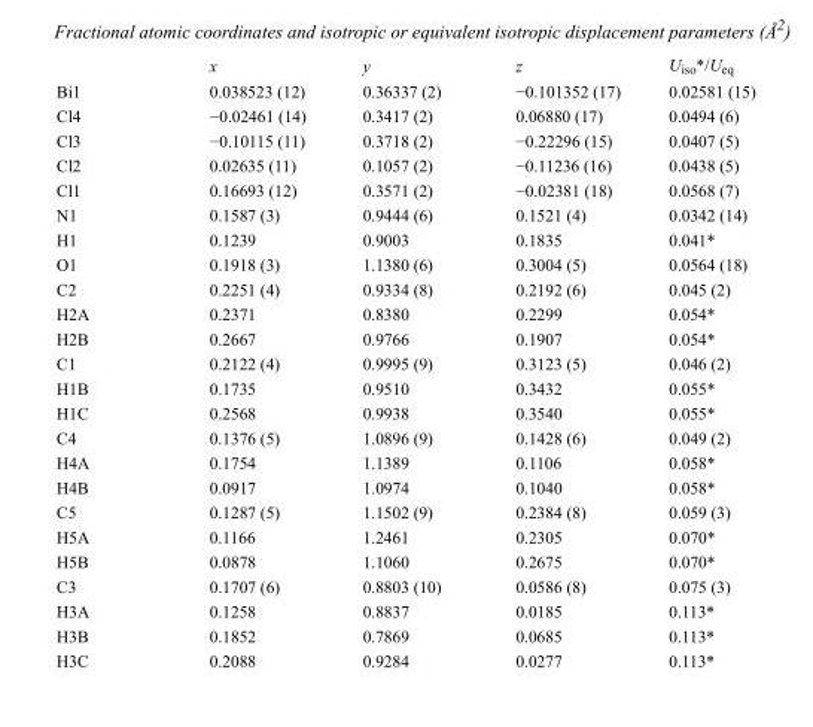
<table><thead><tr><td></td><td>x</td><td>y</td><td>z</td><td>U<sub>iso</sub>*/U<sub>eq</sub></td></tr></thead><tbody><tr><td>Bi1</td><td>0.038523 (12)</td><td>0.36337 (2)</td><td>−0.101352 (17)</td><td>0.02581 (15)</td></tr><tr><td>Cl4</td><td>−0.02461 (14)</td><td>0.3417 (2)</td><td>0.06880 (17)</td><td>0.0494 (6)</td></tr><tr><td>Cl3</td><td>−0.10115 (11)</td><td>0.3718 (2)</td><td>−0.22296 (15)</td><td>0.0407 (5)</td></tr><tr><td>Cl2</td><td>0.02635 (11)</td><td>0.1057 (2)</td><td>−0.11236 (16)</td><td>0.0438 (5)</td></tr><tr><td>Cl1</td><td>0.16693 (12)</td><td>0.3571 (2)</td><td>−0.02381 (18)</td><td>0.0568 (7)</td></tr><tr><td>N1</td><td>0.1587 (3)</td><td>0.9444 (6)</td><td>0.1521 (4)</td><td>0.0342 (14)</td></tr><tr><td>H1</td><td>0.1239</td><td>0.9003</td><td>0.1835</td><td>0.041*</td></tr><tr><td>O1</td><td>0.1918 (3)</td><td>1.1380 (6)</td><td>0.3004 (5)</td><td>0.0564 (18)</td></tr><tr><td>C2</td><td>0.2251 (4)</td><td>0.9334 (8)</td><td>0.2192 (6)</td><td>0.045 (2)</td></tr><tr><td>H2A</td><td>0.2371</td><td>0.8380</td><td>0.2299</td><td>0.054*</td></tr><tr><td>H2B</td><td>0.2667</td><td>0.9766</td><td>0.1907</td><td>0.054*</td></tr><tr><td>C1</td><td>0.2122 (4)</td><td>0.9995 (9)</td><td>0.3123 (5)</td><td>0.046 (2)</td></tr><tr><td>H1B</td><td>0.1735</td><td>0.9510</td><td>0.3432</td><td>0.055*</td></tr><tr><td>H1C</td><td>0.2568</td><td>0.9938</td><td>0.3540</td><td>0.055*</td></tr><tr><td>C4</td><td>0.1376 (5)</td><td>1.0896 (9)</td><td>0.1428 (6)</td><td>0.049 (2)</td></tr><tr><td>H4A</td><td>0.1754</td><td>1.1389</td><td>0.1106</td><td>0.058*</td></tr><tr><td>H4B</td><td>0.0917</td><td>1.0974</td><td>0.1040</td><td>0.058*</td></tr><tr><td>C5</td><td>0.1287 (5)</td><td>1.1502 (9)</td><td>0.2384 (8)</td><td>0.059 (3)</td></tr><tr><td>H5A</td><td>0.1166</td><td>1.2461</td><td>0.2305</td><td>0.070*</td></tr><tr><td>H5B</td><td>0.0878</td><td>1.1060</td><td>0.2675</td><td>0.070*</td></tr><tr><td>C3</td><td>0.1707 (6)</td><td>0.8803 (10)</td><td>0.0586 (8)</td><td>0.075 (3)</td></tr><tr><td>H3A</td><td>0.1258</td><td>0.8837</td><td>0.0185</td><td>0.113*</td></tr><tr><td>H3B</td><td>0.1852</td><td>0.7869</td><td>0.0685</td><td>0.113*</td></tr><tr><td>H3C</td><td>0.2088</td><td>0.9284</td><td>0.0277</td><td>0.113*</td></tr></tbody></table>